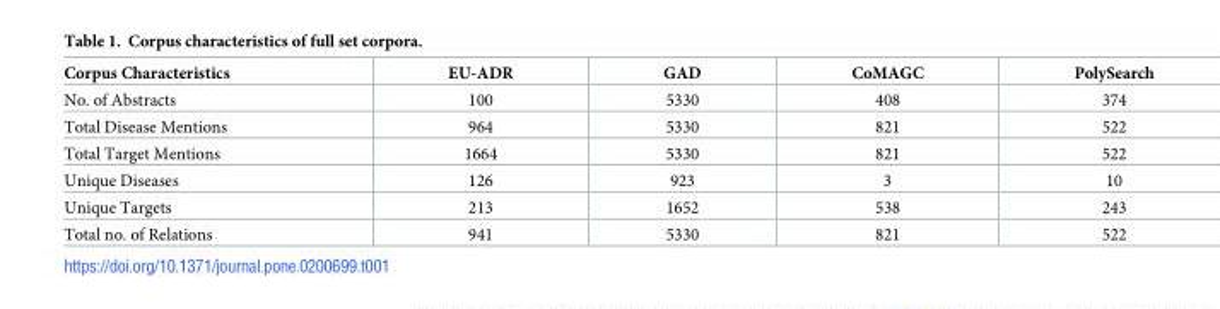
<table><thead><tr><td>Corpus Characteristics</td><td>EU-ADR</td><td>GAD</td><td>CoMAGC</td><td>PolySearch</td></tr></thead><tbody><tr><td>No. of Abstracts</td><td>100</td><td>5330</td><td>408</td><td>374</td></tr><tr><td>Total Disease Mentions</td><td>964</td><td>5330</td><td>821</td><td>522</td></tr><tr><td>Total Target Mentions</td><td>1664</td><td>5330</td><td>821</td><td>522</td></tr><tr><td>Unique Diseases</td><td>126</td><td>923</td><td>3</td><td>10</td></tr><tr><td>Unique Targets</td><td>213</td><td>1652</td><td>538</td><td>243</td></tr><tr><td>Total no. of Relations</td><td>941</td><td>5330</td><td>821</td><td>522</td></tr></tbody></table>